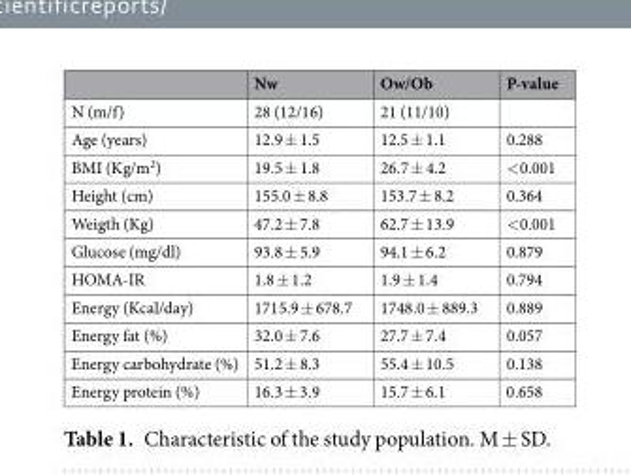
<table><thead><tr><td></td><td>Nw</td><td>Ow/Ob</td><td>P-value</td></tr></thead><tbody><tr><td>N (m/f)</td><td>28 (12/16)</td><td>21 (11/10)</td><td></td></tr><tr><td>Age (years)</td><td>12.9 ± 1.5</td><td>12.5 ± 1.1</td><td>0.288</td></tr><tr><td>BMI (Kg/m<sup>2</sup>)</td><td>19.5 ± 1.8</td><td>26.7 ± 4.2</td><td>&lt;0.001</td></tr><tr><td>Height (cm)</td><td>155.0 ± 8.8</td><td>153.7 ± 8.2</td><td>0.364</td></tr><tr><td>Weigth (Kg)</td><td>47.2 ± 7.8</td><td>62.7 ± 13.9</td><td>&lt;0.001</td></tr><tr><td>Glucose (mg/dl)</td><td>93.8 ± 5.9</td><td>94.1 ± 6.2</td><td>0.879</td></tr><tr><td>HOMA-IR</td><td>1.8 ± 1.2</td><td>1.9 ± 1.4</td><td>0.794</td></tr><tr><td>Energy (Kcal/day)</td><td>1715.9 ± 678.7</td><td>1748.0 ± 889.3</td><td>0.889</td></tr><tr><td>Energy fat (%)</td><td>32.0 ± 7.6</td><td>27.7 ± 7.4</td><td>0.057</td></tr><tr><td>Energy carbohydrate (%)</td><td>51.2 ± 8.3</td><td>55.4 ± 10.5</td><td>0.138</td></tr><tr><td>Energy protein (%)</td><td>16.3 ± 3.9</td><td>15.7 ± 6.1</td><td>0.658</td></tr></tbody></table>